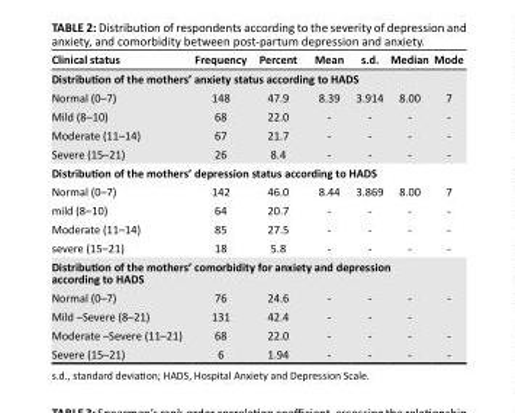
<table><thead><tr><td>Clinical status</td><td>Frequency</td><td>Percent</td><td>Mean</td><td>s.d.</td><td>Median</td><td>Mode</td></tr></thead><tbody><tr><td colspan="7">Distribution of the mothers’ anxiety status according to HADS</td></tr><tr><td>Normal (0–7)</td><td>148</td><td>47.9</td><td>8.39</td><td>3.914</td><td>8.00</td><td>7</td></tr><tr><td>Mild (8–10)</td><td>68</td><td>22.0</td><td>-</td><td>-</td><td>-</td><td>-</td></tr><tr><td>Moderate (11–14)</td><td>67</td><td>21.7</td><td>-</td><td>-</td><td>-</td><td>-</td></tr><tr><td>Severe (15–21)</td><td>26</td><td>8.4</td><td>-</td><td>-</td><td>-</td><td>-</td></tr><tr><td colspan="7">Distribution of the mothers’ depression status according to HADS</td></tr><tr><td>Normal (0–7)</td><td>142</td><td>46.0</td><td>8.44</td><td>3.869</td><td>8.00</td><td>7</td></tr><tr><td>mild (8–10)</td><td>64</td><td>20.7</td><td>-</td><td>-</td><td>-</td><td>-</td></tr><tr><td>Moderate (11–14)</td><td>85</td><td>27.5</td><td>-</td><td>-</td><td>-</td><td>-</td></tr><tr><td>severe (15–21)</td><td>18</td><td>5.8</td><td>-</td><td>-</td><td>-</td><td>-</td></tr><tr><td colspan="7">Distribution of the mothers’ comorbidity for anxiety and depression according to HADS</td></tr><tr><td>Normal (0–7)</td><td>76</td><td>24.6</td><td>-</td><td>-</td><td>-</td><td>-</td></tr><tr><td>Mild –Severe (8–21)</td><td>131</td><td>42.4</td><td>-</td><td>-</td><td>-</td><td></td></tr><tr><td>Moderate –Severe (11–21)</td><td>68</td><td>22.0</td><td>-</td><td>-</td><td>-</td><td>-</td></tr><tr><td>Severe (15–21)</td><td>6</td><td>1.94</td><td>-</td><td>-</td><td>-</td><td>-</td></tr></tbody></table>